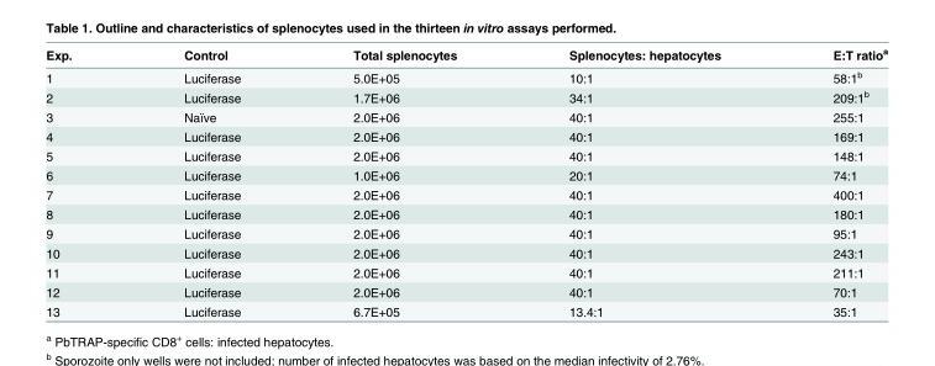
<table><thead><tr><td>Exp.</td><td>Control</td><td>Total splenocytes</td><td>Splenocytes: hepatocytes</td><td>E:T ratio<sup>a</sup></td></tr></thead><tbody><tr><td>1</td><td>Luciferase</td><td>5.0E+05</td><td>10:1</td><td>58:1<sup>b</sup></td></tr><tr><td>2</td><td>Luciferase</td><td>1.7E+06</td><td>34:1</td><td>209:1<sup>b</sup></td></tr><tr><td>3</td><td>Naïve</td><td>2.0E+06</td><td>40:1</td><td>255:1</td></tr><tr><td>4</td><td>Luciferase</td><td>2.0E+06</td><td>40:1</td><td>169:1</td></tr><tr><td>5</td><td>Luciferase</td><td>2.0E+06</td><td>40:1</td><td>148:1</td></tr><tr><td>6</td><td>Luciferase</td><td>1.0E+06</td><td>20:1</td><td>74:1</td></tr><tr><td>7</td><td>Luciferase</td><td>2.0E+06</td><td>40:1</td><td>400:1</td></tr><tr><td>8</td><td>Luciferase</td><td>2.0E+06</td><td>40:1</td><td>180:1</td></tr><tr><td>9</td><td>Luciferase</td><td>2.0E+06</td><td>40:1</td><td>95:1</td></tr><tr><td>10</td><td>Luciferase</td><td>2.0E+06</td><td>40:1</td><td>243:1</td></tr><tr><td>11</td><td>Luciferase</td><td>2.0E+06</td><td>40:1</td><td>211:1</td></tr><tr><td>12</td><td>Luciferase</td><td>2.0E+06</td><td>40:1</td><td>70:1</td></tr><tr><td>13</td><td>Luciferase</td><td>6.7E+05</td><td>13.4:1</td><td>35:1</td></tr></tbody></table>